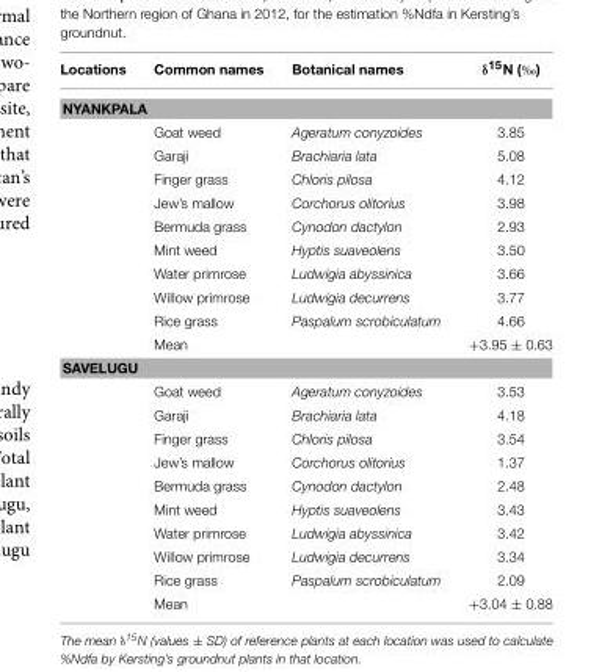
<table><thead><tr><td>Locations</td><td>Common names</td><td>Botanical names</td><td>δ15N (‰)</td></tr></thead><tbody><tr><td colspan="4">NYANKPALA</td></tr><tr><td></td><td>Goat weed</td><td>Ageratum conyzoides</td><td>3.85</td></tr><tr><td></td><td>Garaji</td><td>Brachiaria lata</td><td>5.08</td></tr><tr><td></td><td>Finger grass</td><td>Chloris pilosa</td><td>4.12</td></tr><tr><td></td><td>Jew’s mallow</td><td>Corchorus olitorius</td><td>3.98</td></tr><tr><td></td><td>Bermuda grass</td><td>Cynodon dactylon</td><td>2.93</td></tr><tr><td></td><td>Mint weed</td><td>Hyptis suaveolens</td><td>3.50</td></tr><tr><td></td><td>Water primrose</td><td>Ludwigia abyssinica</td><td>3.66</td></tr><tr><td></td><td>Willow primrose</td><td>Ludwigia decurrens</td><td>3.77</td></tr><tr><td></td><td>Rice grass</td><td>Paspalum scrobiculatum</td><td>4.66</td></tr><tr><td></td><td>Mean</td><td></td><td>+3.95 ± 0.63</td></tr><tr><td colspan="4">SAVELUGU</td></tr><tr><td></td><td>Goat weed</td><td>Ageratum conyzoides</td><td>3.53</td></tr><tr><td></td><td>Garaji</td><td>Brachiaria lata</td><td>4.18</td></tr><tr><td></td><td>Finger grass</td><td>Chloris pilosa</td><td>3.54</td></tr><tr><td></td><td>Jew’s mallow</td><td>Corchorus olitorius</td><td>1.37</td></tr><tr><td></td><td>Bermuda grass</td><td>Cynodon dactylon</td><td>2.48</td></tr><tr><td></td><td>Mint weed</td><td>Hyptis suaveolens</td><td>3.43</td></tr><tr><td></td><td>Water primrose</td><td>Ludwigia abyssinica</td><td>3.42</td></tr><tr><td></td><td>Willow primrose</td><td>Ludwigia decurrens</td><td>3.34</td></tr><tr><td></td><td>Rice grass</td><td>Paspalum scrobiculatum</td><td>2.09</td></tr><tr><td></td><td>Mean</td><td></td><td>+3.04 ± 0.88</td></tr></tbody></table>